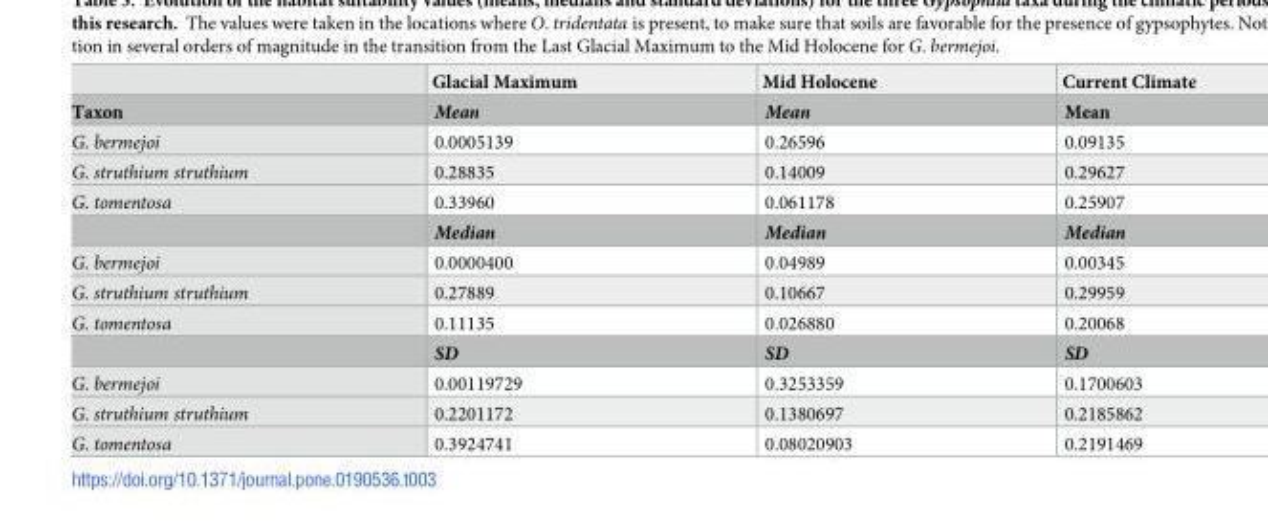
<table><thead><tr><td></td><td>Glacial Maximum</td><td>Mid Holocene</td><td>Current Climate</td></tr></thead><tbody><tr><td>Taxon</td><td>Mean</td><td>Mean</td><td>Mean</td></tr><tr><td>G. bermejoi</td><td>0.0005139</td><td>0.26596</td><td>0.09135</td></tr><tr><td>G. struthium struthium</td><td>0.28835</td><td>0.14009</td><td>0.29627</td></tr><tr><td rowspan="2">G. tomentosa</td><td>0.33960</td><td>0.061178</td><td>0.25907</td></tr><tr><td>Median</td><td>Median</td><td>Median</td></tr><tr><td>G. bermejoi</td><td>0.0000400</td><td>0.04989</td><td>0.00345</td></tr><tr><td>G. struthium struthium</td><td>0.27889</td><td>0.10667</td><td>0.29959</td></tr><tr><td rowspan="2">G. tomentosa</td><td>0.11135</td><td>0.026880</td><td>0.20068</td></tr><tr><td>SD</td><td>SD</td><td>SD</td></tr><tr><td>G. bermejoi</td><td>0.00119729</td><td>0.3253359</td><td>0.1700603</td></tr><tr><td>G. struthium struthium</td><td>0.2201172</td><td>0.1380697</td><td>0.2185862</td></tr><tr><td>G. tomentosa</td><td>0.3924741</td><td>0.08020903</td><td>0.2191469</td></tr></tbody></table>